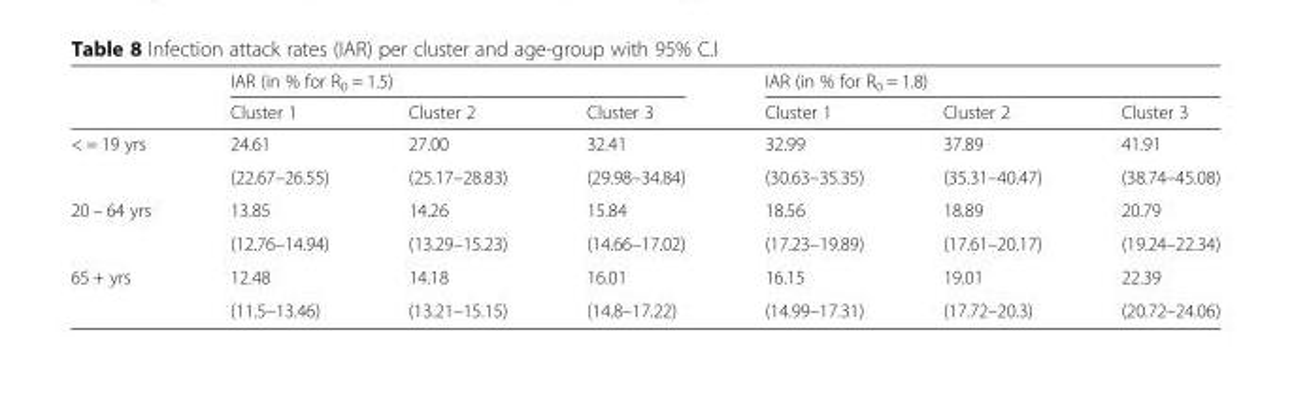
<table><thead><tr><td rowspan="2"></td><td colspan="3">IAR (in % for R<sub>0</sub> = 1.5)</td><td colspan="3">IAR (in % for R<sub>0</sub> = 1.8)</td></tr><tr><td>Cluster 1</td><td>Cluster 2</td><td>Cluster 3</td><td>Cluster 1</td><td>Cluster 2</td><td>Cluster 3</td></tr></thead><tbody><tr><td rowspan="2">&lt; = 19 yrs</td><td>24.61</td><td>27.00</td><td>32.41</td><td>32.99</td><td>37.89</td><td>41.91</td></tr><tr><td>(22.67–26.55)</td><td>(25.17–28.83)</td><td>(29.98–34.84)</td><td>(30.63–35.35)</td><td>(35.31–40.47)</td><td>(38.74–45.08)</td></tr><tr><td rowspan="2">20 – 64 yrs</td><td>13.85</td><td>14.26</td><td>15.84</td><td>18.56</td><td>18.89</td><td>20.79</td></tr><tr><td>(12.76–14.94)</td><td>(13.29–15.23)</td><td>(14.66–17.02)</td><td>(17.23–19.89)</td><td>(17.61–20.17)</td><td>(19.24–22.34)</td></tr><tr><td rowspan="2">65 + yrs</td><td>12.48</td><td>14.18</td><td>16.01</td><td>16.15</td><td>19.01</td><td>22.39</td></tr><tr><td>(11.5–13.46)</td><td>(13.21–15.15)</td><td>(14.8–17.22)</td><td>(14.99–17.31)</td><td>(17.72–20.3)</td><td>(20.72–24.06)</td></tr></tbody></table>